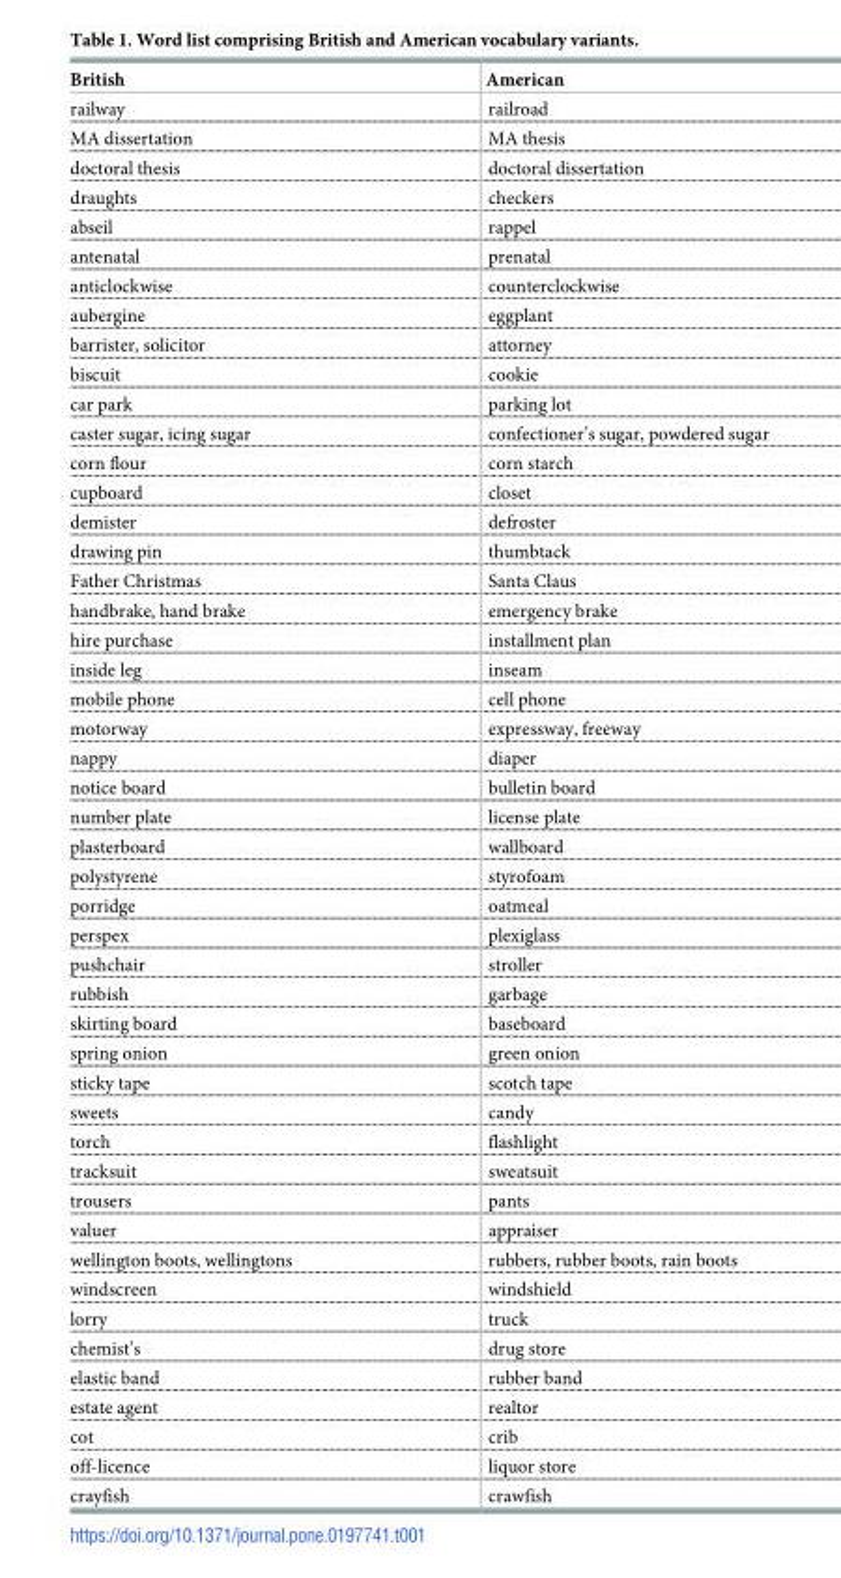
<table><thead><tr><td>British</td><td>American</td></tr></thead><tbody><tr><td>railway</td><td>railroad</td></tr><tr><td>MA dissertation</td><td>MA thesis</td></tr><tr><td>doctoral thesis</td><td>doctoral dissertation</td></tr><tr><td>draughts</td><td>checkers</td></tr><tr><td>abseil</td><td>rappel</td></tr><tr><td>antenatal</td><td>prenatal</td></tr><tr><td>anticlockwise</td><td>counterclockwise</td></tr><tr><td>aubergine</td><td>eggplant</td></tr><tr><td>barrister, solicitor</td><td>attorney</td></tr><tr><td>biscuit</td><td>cookie</td></tr><tr><td>car park</td><td>parking lot</td></tr><tr><td>caster sugar, icing sugar</td><td>confectioner’s sugar, powdered sugar</td></tr><tr><td>corn flour</td><td>corn starch</td></tr><tr><td>cupboard</td><td>closet</td></tr><tr><td>demister</td><td>defroster</td></tr><tr><td>drawing pin</td><td>thumbtack</td></tr><tr><td>Father Christmas</td><td>Santa Claus</td></tr><tr><td>handbrake, hand brake</td><td>emergency brake</td></tr><tr><td>hire purchase</td><td>installment plan</td></tr><tr><td>inside leg</td><td>inseam</td></tr><tr><td>mobile phone</td><td>cell phone</td></tr><tr><td>motorway</td><td>expressway, freeway</td></tr><tr><td>nappy</td><td>diaper</td></tr><tr><td>notice board</td><td>bulletin board</td></tr><tr><td>number plate</td><td>license plate</td></tr><tr><td>plasterboard</td><td>wallboard</td></tr><tr><td>polystyrene</td><td>styrofoam</td></tr><tr><td>porridge</td><td>oatmeal</td></tr><tr><td>perspex</td><td>plexiglass</td></tr><tr><td>pushchair</td><td>stroller</td></tr><tr><td>rubbish</td><td>garbage</td></tr><tr><td>skirting board</td><td>baseboard</td></tr><tr><td>spring onion</td><td>green onion</td></tr><tr><td>sticky tape</td><td>scotch tape</td></tr><tr><td>sweets</td><td>candy</td></tr><tr><td>torch</td><td>flashlight</td></tr><tr><td>tracksuit</td><td>sweatsuit</td></tr><tr><td>trousers</td><td>pants</td></tr><tr><td>valuer</td><td>appraiser</td></tr><tr><td>wellington boots, wellingtons</td><td>rubbers, rubber boots, rain boots</td></tr><tr><td>windscreen</td><td>windshield</td></tr><tr><td>lorry</td><td>truck</td></tr><tr><td>chemist’s</td><td>drug store</td></tr><tr><td>elastic band</td><td>rubber band</td></tr><tr><td>estate agent</td><td>realtor</td></tr><tr><td>cot</td><td>crib</td></tr><tr><td>off-licence</td><td>liquor store</td></tr><tr><td>crayfish</td><td>crawfish</td></tr></tbody></table>